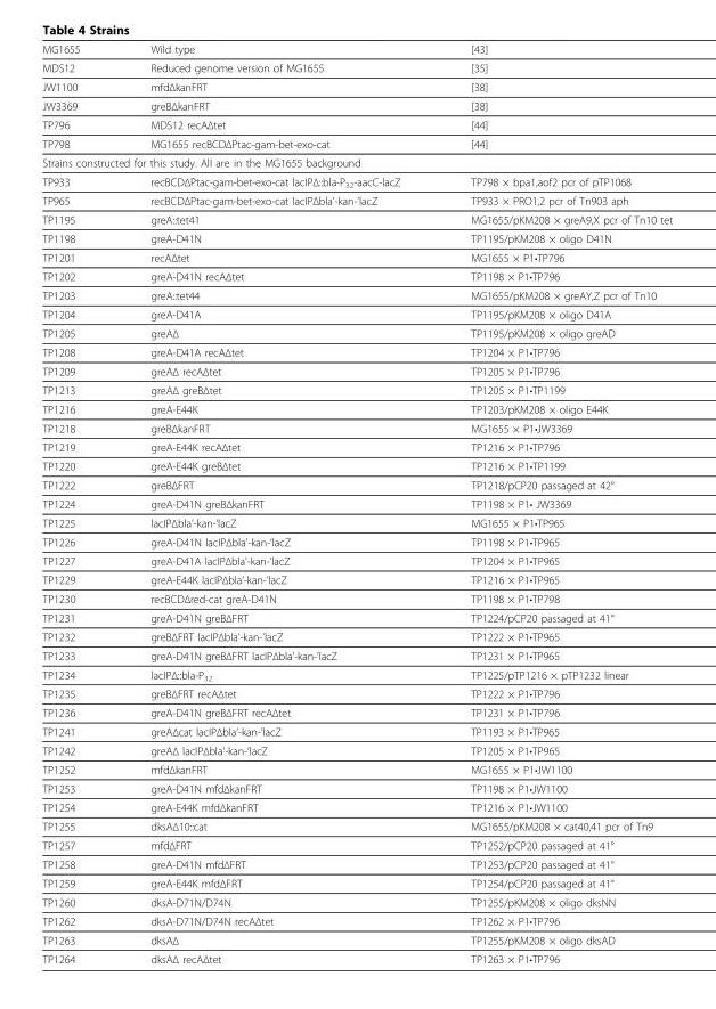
<table><thead><tr><td>MG1655</td><td>Wild type</td><td>[43]</td></tr></thead><tbody><tr><td>MDS12</td><td>Reduced genome version of MG1655</td><td>[35]</td></tr><tr><td>JW1100</td><td>mfdΔkanFRT</td><td>[38]</td></tr><tr><td>JW3369</td><td>greBΔkanFRT</td><td>[38]</td></tr><tr><td>TP796</td><td>MDS12 recAΔtet</td><td>[44]</td></tr><tr><td>TP798</td><td>MG1655 recBCDΔPtac-gam-bet-exo-cat</td><td>[44]</td></tr><tr><td colspan="3">Strains constructed for this study. All are in the MG1655 background</td></tr><tr><td>TP933</td><td>recBCDΔPtac-gam-bet-exo-cat lacIPΔ::bla-P<sub>32</sub>-aacC-lacZ</td><td>TP798 × bpa1,aof2 pcr of pTP1068</td></tr><tr><td>TP965</td><td>recBCDΔPtac-gam-bet-exo-cat lacIPΔbla’-kan-’lacZ</td><td>TP933 × PRO1,2 pcr of Tn903 aph</td></tr><tr><td>TP1195</td><td>greA::tet41</td><td>MG1655/pKM208 × greA9,X pcr of Tn10 tet</td></tr><tr><td>TP1198</td><td>greA-D41N</td><td>TP1195/pKM208 × oligo D41N</td></tr><tr><td>TP1201</td><td>recAΔtet</td><td>MG1655 × P1•TP796</td></tr><tr><td>TP1202</td><td>greA-D41N recAΔtet</td><td>TP1198 × P1•TP796</td></tr><tr><td>TP1203</td><td>greA::tet44</td><td>MG1655/pKM208 × greAY,Z pcr of Tn10</td></tr><tr><td>TP1204</td><td>greA-D41A</td><td>TP1195/pKM208 × oligo D41A</td></tr><tr><td>TP1205</td><td>greAΔ</td><td>TP1195/pKM208 × oligo greAD</td></tr><tr><td>TP1208</td><td>greA-D41A recAΔtet</td><td>TP1204 × P1•TP796</td></tr><tr><td>TP1209</td><td>greAΔ recAΔtet</td><td>TP1205 × P1•TP796</td></tr><tr><td>TP1213</td><td>greAΔ greBΔtet</td><td>TP1205 × P1•TP1199</td></tr><tr><td>TP1216</td><td>greA-E44K</td><td>TP1203/pKM208 × oligo E44K</td></tr><tr><td>TP1218</td><td>greBΔkanFRT</td><td>MG1655 × P1•JW3369</td></tr><tr><td>TP1219</td><td>greA-E44K recAΔtet</td><td>TP1216 × P1•TP796</td></tr><tr><td>TP1220</td><td>greA-E44K greBΔtet</td><td>TP1216 × P1•TP1199</td></tr><tr><td>TP1222</td><td>greBΔFRT</td><td>TP1218/pCP20 passaged at 42°</td></tr><tr><td>TP1224</td><td>greA-D41N greBΔkanFRT</td><td>TP1198 × P1• JW3369</td></tr><tr><td>TP1225</td><td>lacIPΔbla’-kan-’lacZ</td><td>MG1655 × P1•TP965</td></tr><tr><td>TP1226</td><td>greA-D41N lacIPΔbla’-kan-’lacZ</td><td>TP1198 × P1•TP965</td></tr><tr><td>TP1227</td><td>greA-D41A lacIPΔbla’-kan-’lacZ</td><td>TP1204 × P1•TP965</td></tr><tr><td>TP1229</td><td>greA-E44K lacIPΔbla’-kan-’lacZ</td><td>TP1216 × P1•TP965</td></tr><tr><td>TP1230</td><td>recBCDΔred-cat greA-D41N</td><td>TP1198 × P1•TP798</td></tr><tr><td>TP1231</td><td>greA-D41N greBΔFRT</td><td>TP1224/pCP20 passaged at 41°</td></tr><tr><td>TP1232</td><td>greBΔFRT lacIPΔbla’-kan-’lacZ</td><td>TP1222 × P1•TP965</td></tr><tr><td>TP1233</td><td>greA-D41N greBΔFRT lacIPΔbla’-kan-’lacZ</td><td>TP1231 × P1•TP965</td></tr><tr><td>TP1234</td><td>lacIPΔ::bla-P<sub>32</sub></td><td>TP1225/pTP1216 × pTP1232 linear</td></tr><tr><td>TP1235</td><td>greBΔFRT recAΔtet</td><td>TP1222 × P1•TP796</td></tr><tr><td>TP1236</td><td>greA-D41N greBΔFRT recAΔtet</td><td>TP1231 × P1•TP796</td></tr><tr><td>TP1241</td><td>greAΔcat lacIPΔbla’-kan-’lacZ</td><td>TP1193 × P1•TP965</td></tr><tr><td>TP1242</td><td>greAΔ lacIPΔbla’-kan-’lacZ</td><td>TP1205 × P1•TP965</td></tr><tr><td>TP1252</td><td>mfdΔkanFRT</td><td>MG1655 × P1•JW1100</td></tr><tr><td>TP1253</td><td>greA-D41N mfdΔkanFRT</td><td>TP1198 × P1•JW1100</td></tr><tr><td>TP1254</td><td>greA-E44K mfdΔkanFRT</td><td>TP1216 × P1•JW1100</td></tr><tr><td>TP1255</td><td>dksAΔ10::cat</td><td>MG1655/pKM208 × cat40,41 pcr of Tn9</td></tr><tr><td>TP1257</td><td>mfdΔFRT</td><td>TP1252/pCP20 passaged at 41°</td></tr><tr><td>TP1258</td><td>greA-D41N mfdΔFRT</td><td>TP1253/pCP20 passaged at 41°</td></tr><tr><td>TP1259</td><td>greA-E44K mfdΔFRT</td><td>TP1254/pCP20 passaged at 41°</td></tr><tr><td>TP1260</td><td>dksA-D71N/D74N</td><td>TP1255/pKM208 × oligo dksNN</td></tr><tr><td>TP1262</td><td>dksA-D71N/D74N recAΔtet</td><td>TP1262 × P1•TP796</td></tr><tr><td>TP1263</td><td>dksAΔ</td><td>TP1255/pKM208 × oligo dksAD</td></tr><tr><td>TP1264</td><td>dksAΔ recAΔtet</td><td>TP1263 × P1•TP796</td></tr></tbody></table>